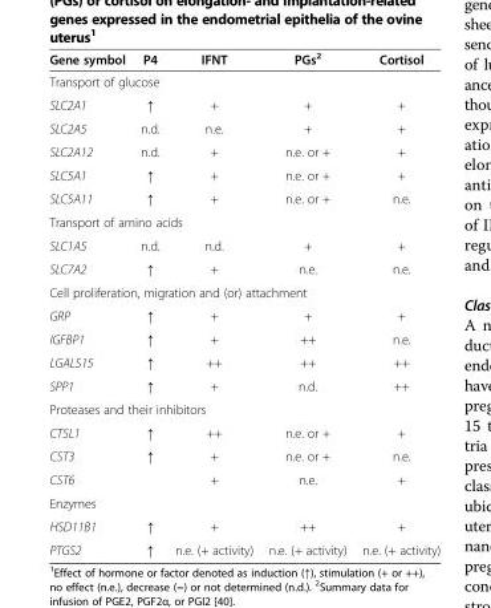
<table><thead><tr><td>Gene symbol</td><td>P4</td><td>IFNT</td><td>PGs<sup>2</sup></td><td>Cortisol</td></tr></thead><tbody><tr><td colspan="5">Transport of glucose</td></tr><tr><td>SLC2A1</td><td>↑</td><td>+</td><td>+</td><td>+</td></tr><tr><td>SLC2A5</td><td>n.d.</td><td>n.e.</td><td>+</td><td>+</td></tr><tr><td>SLC2A12</td><td>n.d.</td><td>+</td><td>n.e. or +</td><td>+</td></tr><tr><td>SLC5A1</td><td>↑</td><td>+</td><td>n.e. or +</td><td>+</td></tr><tr><td>SLC5A11</td><td>↑</td><td>+</td><td>n.e. or +</td><td>n.e.</td></tr><tr><td colspan="5">Transport of amino acids</td></tr><tr><td>SLC1A5</td><td>n.d.</td><td>n.d.</td><td>+</td><td>+</td></tr><tr><td>SLC7A2</td><td>↑</td><td>+</td><td>n.e.</td><td>n.e.</td></tr><tr><td colspan="5">Cell proliferation, migration and (or) attachment</td></tr><tr><td>GRP</td><td>↑</td><td>+</td><td>+</td><td>+</td></tr><tr><td>IGFBP1</td><td>↑</td><td>+</td><td>++</td><td>n.e.</td></tr><tr><td>LGALS15</td><td>↑</td><td>++</td><td>++</td><td>++</td></tr><tr><td>SPP1</td><td>↑</td><td>+</td><td>n.d.</td><td>++</td></tr><tr><td colspan="5">Proteases and their inhibitors</td></tr><tr><td>CTSL1</td><td>↑</td><td>++</td><td>n.e. or +</td><td>+</td></tr><tr><td>CST3</td><td>↑</td><td>+</td><td>n.e. or +</td><td>n.e.</td></tr><tr><td>CST6</td><td></td><td>+</td><td>n.e.</td><td>+</td></tr><tr><td colspan="5">Enzymes</td></tr><tr><td>HSD11B1</td><td>↑</td><td>+</td><td>++</td><td>+</td></tr><tr><td>PTGS2</td><td>↑</td><td>n.e. (+ activity)</td><td>n.e. (+ activity)</td><td>n.e. (+ activity)</td></tr></tbody></table>